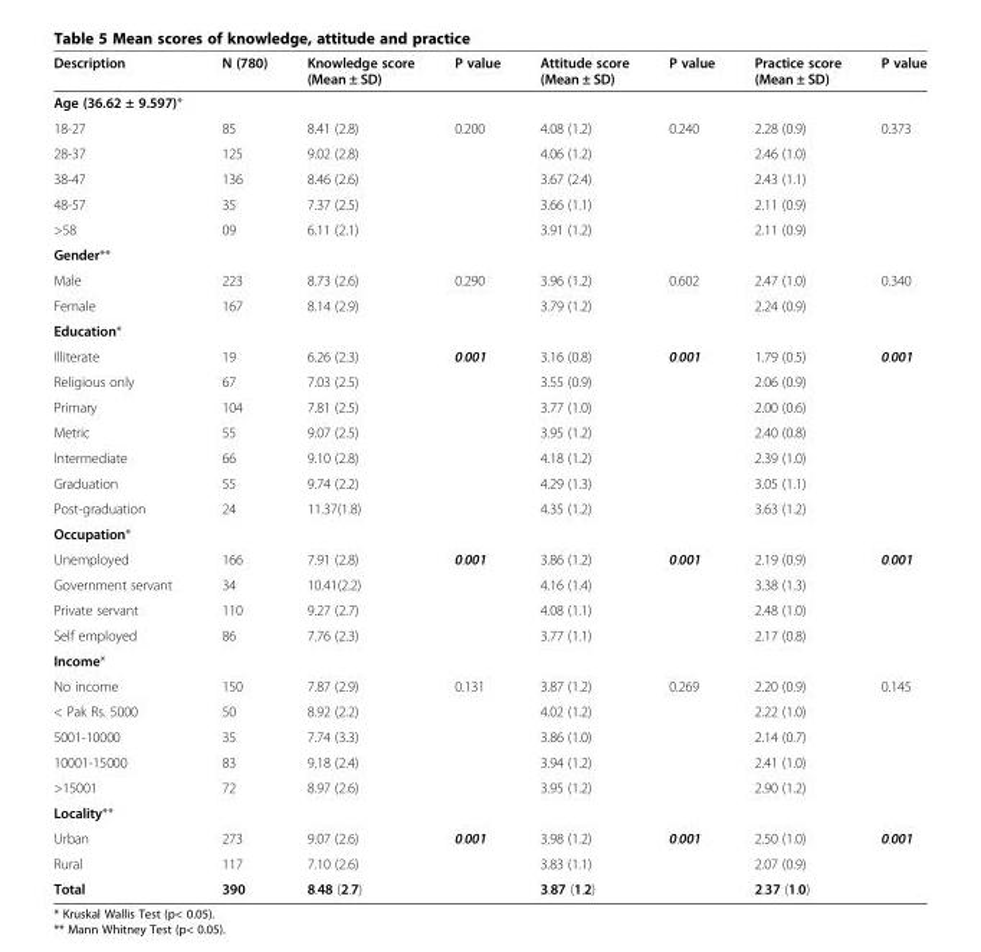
<table><thead><tr><td>Description</td><td>N (780)</td><td>Knowledge score (Mean ± SD)</td><td>P value</td><td>Attitude score (Mean ± SD)</td><td>P value</td><td>Practice score (Mean ± SD)</td><td>P value</td></tr></thead><tbody><tr><td colspan="8">Age (36.62 ± 9.597)*</td></tr><tr><td>18-27</td><td>85</td><td>8.41 (2.8)</td><td>0.200</td><td>4.08 (1.2)</td><td>0.240</td><td>2.28 (0.9)</td><td>0.373</td></tr><tr><td>28-37</td><td>125</td><td>9.02 (2.8)</td><td></td><td>4.06 (1.2)</td><td></td><td>2.46 (1.0)</td><td></td></tr><tr><td>38-47</td><td>136</td><td>8.46 (2.6)</td><td></td><td>3.67 (2.4)</td><td></td><td>2.43 (1.1)</td><td></td></tr><tr><td>48-57</td><td>35</td><td>7.37 (2.5)</td><td></td><td>3.66 (1.1)</td><td></td><td>2.11 (0.9)</td><td></td></tr><tr><td>&gt;58</td><td>09</td><td>6.11 (2.1)</td><td></td><td>3.91 (1.2)</td><td></td><td>2.11 (0.9)</td><td></td></tr><tr><td colspan="8">Gender**</td></tr><tr><td>Male</td><td>223</td><td>8.73 (2.6)</td><td>0.290</td><td>3.96 (1.2)</td><td>0.602</td><td>2.47 (1.0)</td><td>0.340</td></tr><tr><td>Female</td><td>167</td><td>8.14 (2.9)</td><td></td><td>3.79 (1.2)</td><td></td><td>2.24 (0.9)</td><td></td></tr><tr><td colspan="8">Education*</td></tr><tr><td>Illiterate</td><td>19</td><td>6.26 (2.3)</td><td>0.001</td><td>3.16 (0.8)</td><td>0.001</td><td>1.79 (0.5)</td><td>0.001</td></tr><tr><td>Religious only</td><td>67</td><td>7.03 (2.5)</td><td></td><td>3.55 (0.9)</td><td></td><td>2.06 (0.9)</td><td></td></tr><tr><td>Primary</td><td>104</td><td>7.81 (2.5)</td><td></td><td>3.77 (1.0)</td><td></td><td>2.00 (0.6)</td><td></td></tr><tr><td>Metric</td><td>55</td><td>9.07 (2.5)</td><td></td><td>3.95 (1.2)</td><td></td><td>2.40 (0.8)</td><td></td></tr><tr><td>Intermediate</td><td>66</td><td>9.10 (2.8)</td><td></td><td>4.18 (1.2)</td><td></td><td>2.39 (1.0)</td><td></td></tr><tr><td>Graduation</td><td>55</td><td>9.74 (2.2)</td><td></td><td>4.29 (1.3)</td><td></td><td>3.05 (1.1)</td><td></td></tr><tr><td>Post-graduation</td><td>24</td><td>11.37(1.8)</td><td></td><td>4.35 (1.2)</td><td></td><td>3.63 (1.2)</td><td></td></tr><tr><td colspan="8">Occupation*</td></tr><tr><td>Unemployed</td><td>166</td><td>7.91 (2.8)</td><td>0.001</td><td>3.86 (1.2)</td><td>0.001</td><td>2.19 (0.9)</td><td>0.001</td></tr><tr><td>Government servant</td><td>34</td><td>10.41(2.2)</td><td></td><td>4.16 (1.4)</td><td></td><td>3.38 (1.3)</td><td></td></tr><tr><td>Private servant</td><td>110</td><td>9.27 (2.7)</td><td></td><td>4.08 (1.1)</td><td></td><td>2.48 (1.0)</td><td></td></tr><tr><td>Self employed</td><td>86</td><td>7.76 (2.3)</td><td></td><td>3.77 (1.1)</td><td></td><td>2.17 (0.8)</td><td></td></tr><tr><td colspan="8">Income*</td></tr><tr><td>No income</td><td>150</td><td>7.87 (2.9)</td><td>0.131</td><td>3.87 (1.2)</td><td>0.269</td><td>2.20 (0.9)</td><td>0.145</td></tr><tr><td>&lt; Pak Rs. 5000</td><td>50</td><td>8.92 (2.2)</td><td></td><td>4.02 (1.2)</td><td></td><td>2.22 (1.0)</td><td></td></tr><tr><td>5001-10000</td><td>35</td><td>7.74 (3.3)</td><td></td><td>3.86 (1.0)</td><td></td><td>2.14 (0.7)</td><td></td></tr><tr><td>10001-15000</td><td>83</td><td>9.18 (2.4)</td><td></td><td>3.94 (1.2)</td><td></td><td>2.41 (1.0)</td><td></td></tr><tr><td>&gt;15001</td><td>72</td><td>8.97 (2.6)</td><td></td><td>3.95 (1.2)</td><td></td><td>2.90 (1.2)</td><td></td></tr><tr><td colspan="8">Locality**</td></tr><tr><td>Urban</td><td>273</td><td>9.07 (2.6)</td><td>0.001</td><td>3.98 (1.2)</td><td>0.001</td><td>2.50 (1.0)</td><td>0.001</td></tr><tr><td>Rural</td><td>117</td><td>7.10 (2.6)</td><td></td><td>3.83 (1.1)</td><td></td><td>2.07 (0.9)</td><td></td></tr><tr><td>Total</td><td>390</td><td>8.48 (2.7)</td><td></td><td>3.87 (1.2)</td><td></td><td>2.37 (1.0)</td><td></td></tr></tbody></table>